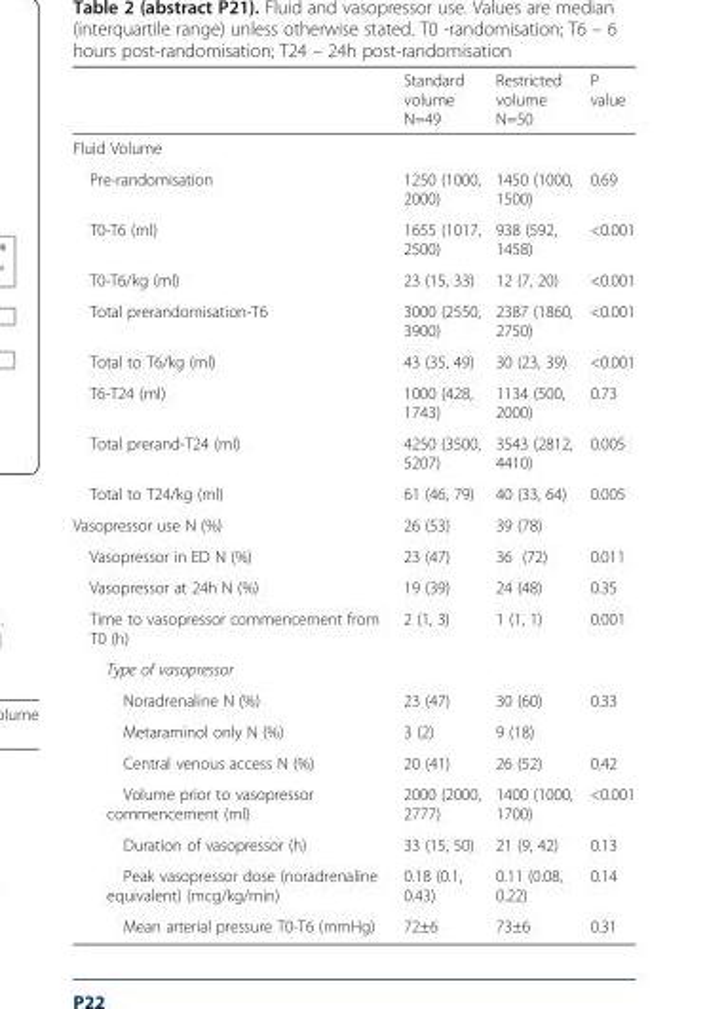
<table><thead><tr><td></td><td>Standard volume N=49</td><td>Restricted volume N=50</td><td>P value</td></tr></thead><tbody><tr><td colspan="4">Fluid Volume</td></tr><tr><td>Pre-randomisation</td><td>1250 (1000, 2000)</td><td>1450 (1000, 1500)</td><td>0.69</td></tr><tr><td>T0-T6 (ml)</td><td>1655 (1017, 2500)</td><td>938 (592, 1458)</td><td>&lt;0.001</td></tr><tr><td>T0-T6/kg (ml)</td><td>23 (15, 33)</td><td>12 (7, 20)</td><td>&lt;0.001</td></tr><tr><td>Total prerandomisation-T6</td><td>3000 (2550, 3900)</td><td>2387 (1860, 2750)</td><td>&lt;0.001</td></tr><tr><td>Total to T6/kg (ml)</td><td>43 (35, 49)</td><td>30 (23, 39)</td><td>&lt;0.001</td></tr><tr><td>T6-T24 (ml)</td><td>1000 (428, 1743)</td><td>1134 (500, 2000)</td><td>0.73</td></tr><tr><td>Total prerand-T24 (ml)</td><td>4250 (3500, 5207)</td><td>3543 (2812, 4410)</td><td>0.005</td></tr><tr><td>Total to T24/kg (ml)</td><td>61 (46, 79)</td><td>40 (33, 64)</td><td>0.005</td></tr><tr><td>Vasopressor use N (%)</td><td>26 (53)</td><td>39 (78)</td><td></td></tr><tr><td>Vasopressor in ED N (%)</td><td>23 (47)</td><td>36 (72)</td><td>0.011</td></tr><tr><td>Vasopressor at 24h N (%)</td><td>19 (39)</td><td>24 (48)</td><td>0.35</td></tr><tr><td>Time to vasopressor commencement from T0 (h)</td><td>2 (1, 3)</td><td>1 (1, 1)</td><td>0.001</td></tr><tr><td colspan="4">Type of vasopressor</td></tr><tr><td>Noradrenaline N (%)</td><td>23 (47)</td><td>30 (60)</td><td>0.33</td></tr><tr><td>Metaraminol only N (%)</td><td>3 (2)</td><td>9 (18)</td><td></td></tr><tr><td>Central venous access N (%)</td><td>20 (41)</td><td>26 (52)</td><td>0.42</td></tr><tr><td>Volume prior to vasopressor commencement (ml)</td><td>2000 (2000, 2777)</td><td>1400 (1000, 1700)</td><td>&lt;0.001</td></tr><tr><td>Duration of vasopressor (h)</td><td>33 (15, 50)</td><td>21 (9, 42)</td><td>0.13</td></tr><tr><td>Peak vasopressor dose (noradrenaline equivalent) (mcg/kg/min)</td><td>0.18 (0.1, 0.43)</td><td>0.11 (0.08, 0.22)</td><td>0.14</td></tr><tr><td>Mean arterial pressure T0-T6 (mmHg)</td><td>72±6</td><td>73±6</td><td>0.31</td></tr></tbody></table>